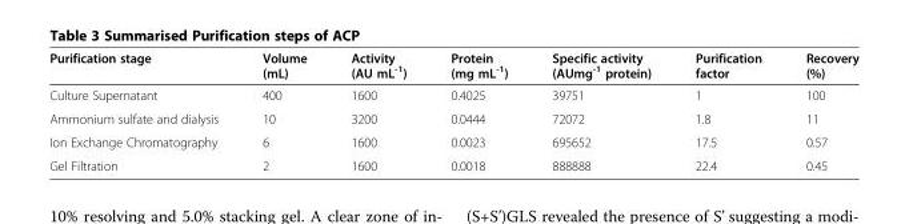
<table><thead><tr><td>Purification stage</td><td>Volume (mL)</td><td>Activity (AU mL<sup>-1</sup>)</td><td>Protein (mg mL<sup>-1</sup>)</td><td>Specific activity (AUmg<sup>-1</sup> protein)</td><td>Purification factor</td><td>Recovery (%)</td></tr></thead><tbody><tr><td>Culture Supernatant</td><td>400</td><td>1600</td><td>0.4025</td><td>39751</td><td>1</td><td>100</td></tr><tr><td>Ammonium sulfate and dialysis</td><td>10</td><td>3200</td><td>0.0444</td><td>72072</td><td>1.8</td><td>11</td></tr><tr><td>Ion Exchange Chromatography</td><td>6</td><td>1600</td><td>0.0023</td><td>695652</td><td>17.5</td><td>0.57</td></tr><tr><td>Gel Filtration</td><td>2</td><td>1600</td><td>0.0018</td><td>888888</td><td>22.4</td><td>0.45</td></tr></tbody></table>